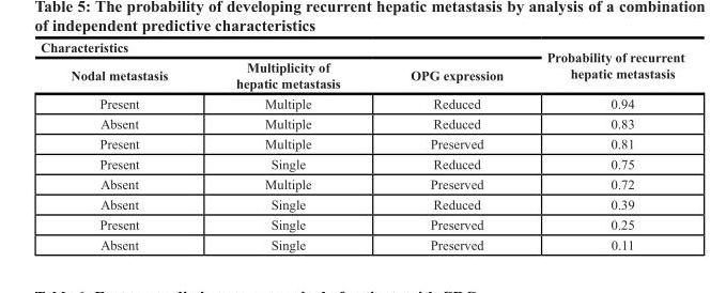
<table><thead><tr><td colspan="3">Characteristics</td><td rowspan="2">Probability of recurrent hepatic metastasis</td></tr><tr><td>Nodal metastasis</td><td>Multiplicity of hepatic metastasis</td><td>OPG expression</td></tr></thead><tbody><tr><td>Present</td><td>Multiple</td><td>Reduced</td><td>0.94</td></tr><tr><td>Absent</td><td>Multiple</td><td>Reduced</td><td>0.83</td></tr><tr><td>Present</td><td>Multiple</td><td>Preserved</td><td>0.81</td></tr><tr><td>Present</td><td>Single</td><td>Reduced</td><td>0.75</td></tr><tr><td>Absent</td><td>Multiple</td><td>Preserved</td><td>0.72</td></tr><tr><td>Absent</td><td>Single</td><td>Reduced</td><td>0.39</td></tr><tr><td>Present</td><td>Single</td><td>Preserved</td><td>0.25</td></tr><tr><td>Absent</td><td>Single</td><td>Preserved</td><td>0.11</td></tr></tbody></table>